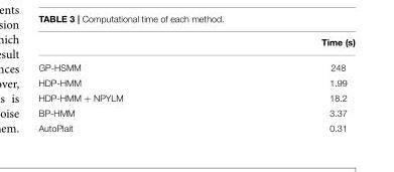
<table><thead><tr><td></td><td>Time (s)</td></tr></thead><tbody><tr><td>GP-HSMM</td><td>248</td></tr><tr><td>HDP-HMM</td><td>1.99</td></tr><tr><td>HDP-HMM + NPYLM</td><td>18.2</td></tr><tr><td>BP-HMM</td><td>3.37</td></tr><tr><td>AutoPlait</td><td>0.31</td></tr></tbody></table>